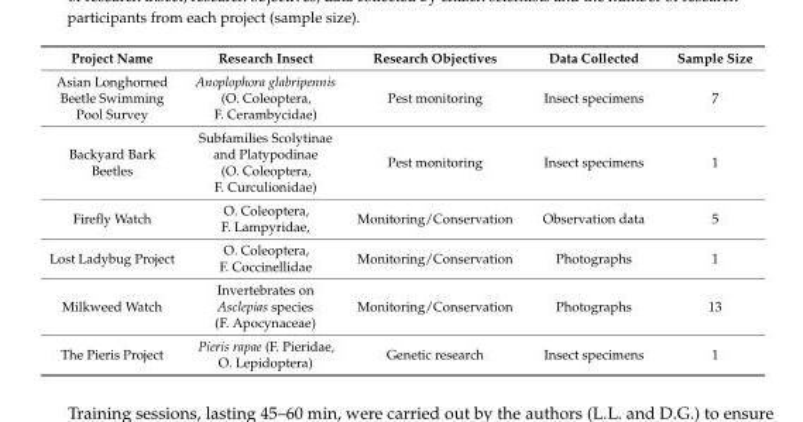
<table><thead><tr><td>Project Name</td><td>Research Insect</td><td>Research Objectives</td><td>Data Collected</td><td>Sample Size</td></tr></thead><tbody><tr><td>Asian Longhorned Beetle Swimming Pool Survey</td><td>Anoplophora glabripennis (O. Coleoptera, F. Cerambycidae)</td><td>Pest monitoring</td><td>Insect specimens</td><td>7</td></tr><tr><td>Backyard Bark Beetles</td><td>Subfamilies Scolytinae and Platypodinae (O. Coleoptera, F. Curculionidae)</td><td>Pest monitoring</td><td>Insect specimens</td><td>1</td></tr><tr><td>Firefly Watch</td><td>O. Coleoptera, F. Lampyridae,</td><td>Monitoring/Conservation</td><td>Observation data</td><td>5</td></tr><tr><td>Lost Ladybug Project</td><td>O. Coleoptera, F. Coccinellidae</td><td>Monitoring/Conservation</td><td>Photographs</td><td>1</td></tr><tr><td>Milkweed Watch</td><td>Invertebrates on Asclepias species (F. Apocynaceae)</td><td>Monitoring/Conservation</td><td>Photographs</td><td>13</td></tr><tr><td>The Pieris Project</td><td>Pieris rapae (F. Pieridae, O. Lepidoptera)</td><td>Genetic research</td><td>Insect specimens</td><td>1</td></tr></tbody></table>